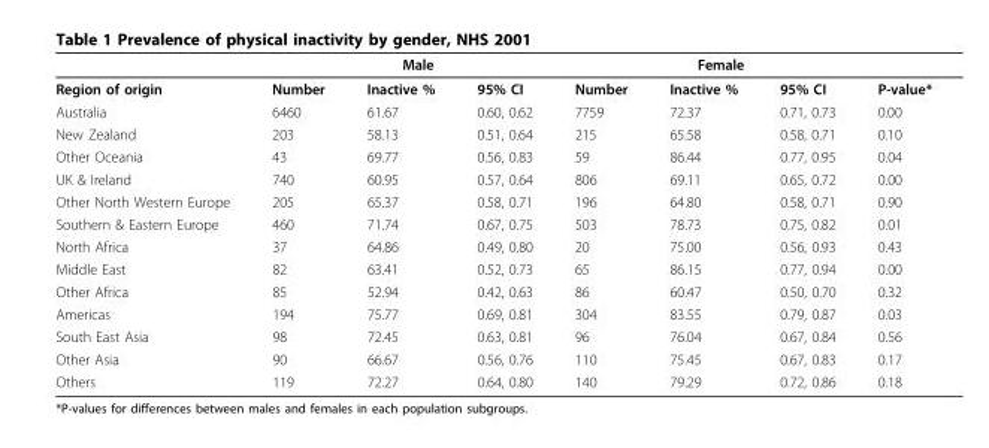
<table><thead><tr><td rowspan="2">Region of origin</td><td colspan="3">Male</td><td colspan="3">Female</td><td rowspan="2">P-value*</td></tr><tr><td>Number</td><td>Inactive %</td><td>95% CI</td><td>Number</td><td>Inactive %</td><td>95% CI</td></tr></thead><tbody><tr><td>Australia</td><td>6460</td><td>61.67</td><td>0.60, 0.62</td><td>7759</td><td>72.37</td><td>0.71, 0.73</td><td>0.00</td></tr><tr><td>New Zealand</td><td>203</td><td>58.13</td><td>0.51, 0.64</td><td>215</td><td>65.58</td><td>0.58, 0.71</td><td>0.10</td></tr><tr><td>Other Oceania</td><td>43</td><td>69.77</td><td>0.56, 0.83</td><td>59</td><td>86.44</td><td>0.77, 0.95</td><td>0.04</td></tr><tr><td>UK &amp; Ireland</td><td>740</td><td>60.95</td><td>0.57, 0.64</td><td>806</td><td>69.11</td><td>0.65, 0.72</td><td>0.00</td></tr><tr><td>Other North Western Europe</td><td>205</td><td>65.37</td><td>0.58, 0.71</td><td>196</td><td>64.80</td><td>0.58, 0.71</td><td>0.90</td></tr><tr><td>Southern &amp; Eastern Europe</td><td>460</td><td>71.74</td><td>0.67, 0.75</td><td>503</td><td>78.73</td><td>0.75, 0.82</td><td>0.01</td></tr><tr><td>North Africa</td><td>37</td><td>64.86</td><td>0.49, 0.80</td><td>20</td><td>75.00</td><td>0.56, 0.93</td><td>0.43</td></tr><tr><td>Middle East</td><td>82</td><td>63.41</td><td>0.52, 0.73</td><td>65</td><td>86.15</td><td>0.77, 0.94</td><td>0.00</td></tr><tr><td>Other Africa</td><td>85</td><td>52.94</td><td>0.42, 0.63</td><td>86</td><td>60.47</td><td>0.50, 0.70</td><td>0.32</td></tr><tr><td>Americas</td><td>194</td><td>75.77</td><td>0.69, 0.81</td><td>304</td><td>83.55</td><td>0.79, 0.87</td><td>0.03</td></tr><tr><td>South East Asia</td><td>98</td><td>72.45</td><td>0.63, 0.81</td><td>96</td><td>76.04</td><td>0.67, 0.84</td><td>0.56</td></tr><tr><td>Other Asia</td><td>90</td><td>66.67</td><td>0.56, 0.76</td><td>110</td><td>75.45</td><td>0.67, 0.83</td><td>0.17</td></tr><tr><td>Others</td><td>119</td><td>72.27</td><td>0.64, 0.80</td><td>140</td><td>79.29</td><td>0.72, 0.86</td><td>0.18</td></tr></tbody></table>